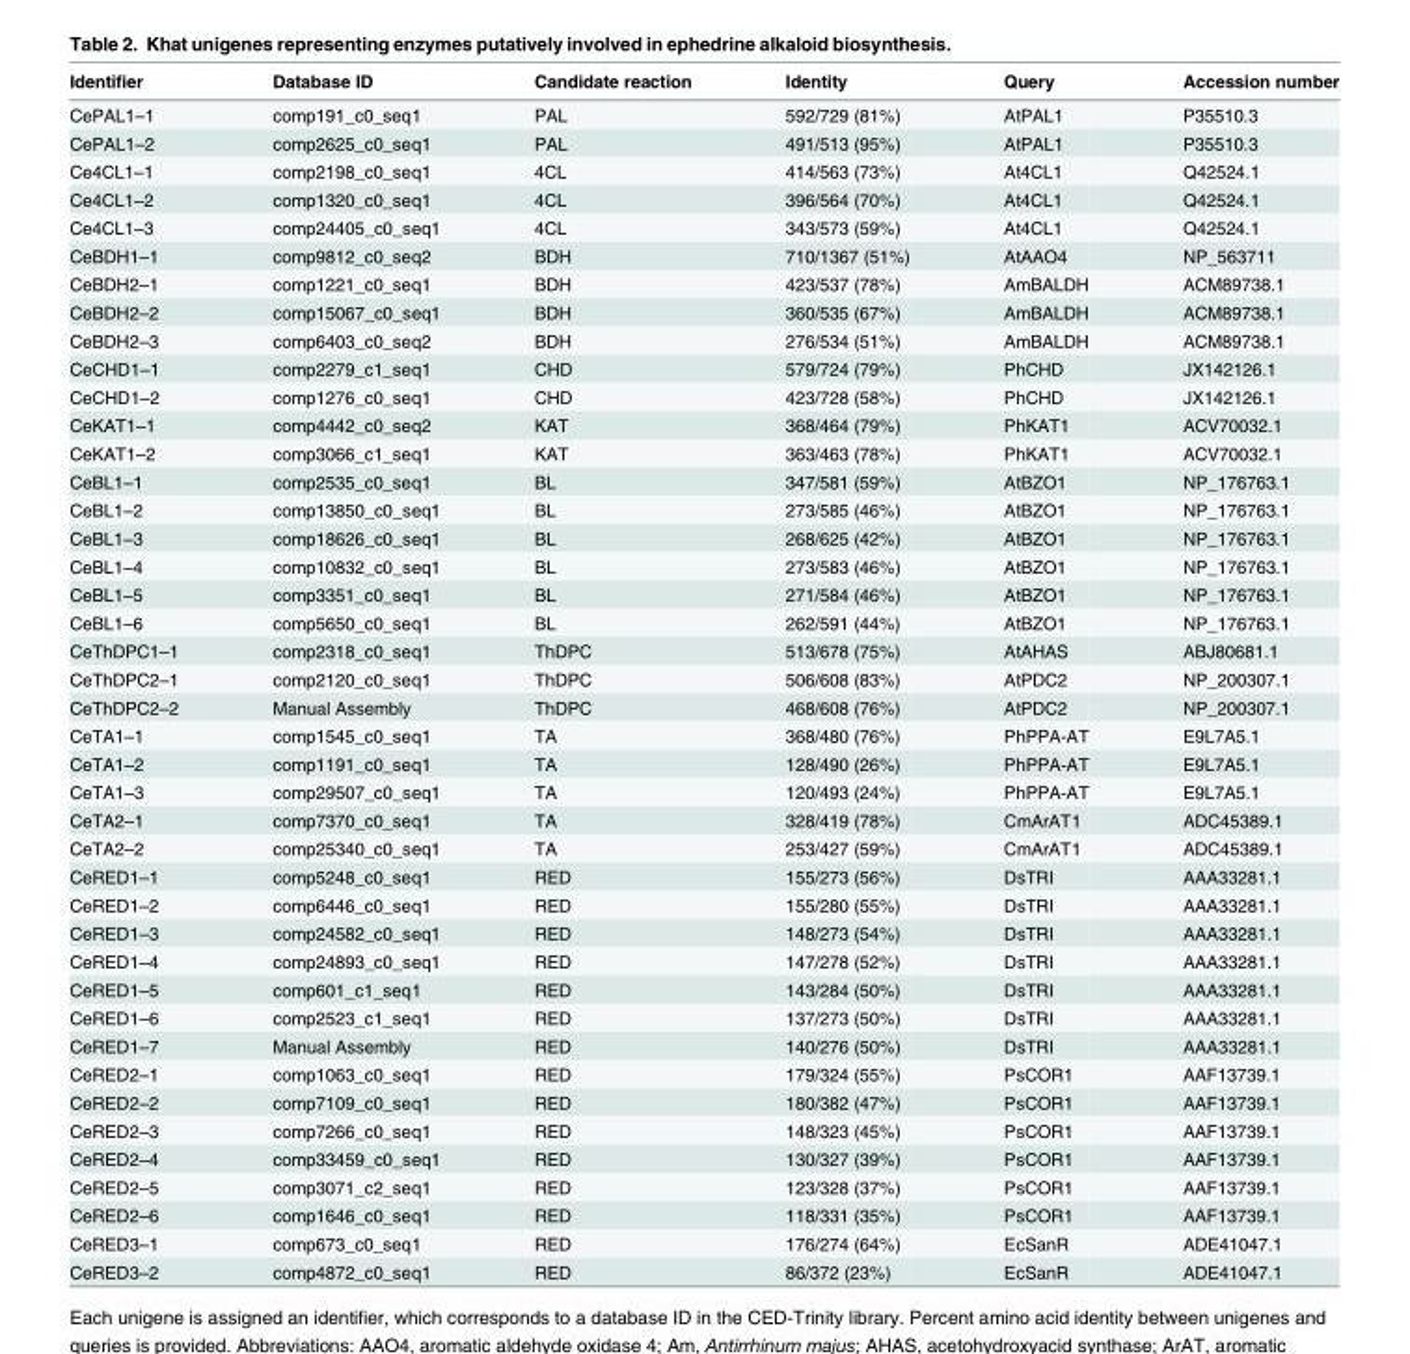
<table><thead><tr><td>Identifier</td><td>Database ID</td><td>Candidate reaction</td><td>Identity</td><td>Query</td><td>Accession number</td></tr></thead><tbody><tr><td>CePAL1–1</td><td>comp191_c0_seq1</td><td>PAL</td><td>592/729 (81%)</td><td>AtPAL1</td><td>P35510.3</td></tr><tr><td>CePAL1–2</td><td>comp2625_c0_seq1</td><td>PAL</td><td>491/513 (95%)</td><td>AtPAL1</td><td>P35510.3</td></tr><tr><td>Ce4CL1–1</td><td>comp2198_c0_seq1</td><td>4CL</td><td>414/563 (73%)</td><td>At4CL1</td><td>Q42524.1</td></tr><tr><td>Ce4CL1–2</td><td>comp1320_c0_seq1</td><td>4CL</td><td>396/564 (70%)</td><td>At4CL1</td><td>Q42524.1</td></tr><tr><td>Ce4CL1–3</td><td>comp24405_c0_seq1</td><td>4CL</td><td>343/573 (59%)</td><td>At4CL1</td><td>Q42524.1</td></tr><tr><td>CeBDH1–1</td><td>comp9812_c0_seq2</td><td>BDH</td><td>710/1367 (51%)</td><td>AtAAO4</td><td>NP_563711</td></tr><tr><td>CeBDH2–1</td><td>comp1221_c0_seq1</td><td>BDH</td><td>423/537 (78%)</td><td>AmBALDH</td><td>ACM89738.1</td></tr><tr><td>CeBDH2–2</td><td>comp15067_c0_seq1</td><td>BDH</td><td>360/535 (67%)</td><td>AmBALDH</td><td>ACM89738.1</td></tr><tr><td>CeBDH2–3</td><td>comp6403_c0_seq2</td><td>BDH</td><td>276/534 (51%)</td><td>AmBALDH</td><td>ACM89738.1</td></tr><tr><td>CeCHD1–1</td><td>comp2279_c1_seq1</td><td>CHD</td><td>579/724 (79%)</td><td>PhCHD</td><td>JX142126.1</td></tr><tr><td>CeCHD1–2</td><td>comp1276_c0_seq1</td><td>CHD</td><td>423/728 (58%)</td><td>PhCHD</td><td>JX142126.1</td></tr><tr><td>CeKAT1–1</td><td>comp4442_c0_seq2</td><td>KAT</td><td>368/464 (79%)</td><td>PhKAT1</td><td>ACV70032.1</td></tr><tr><td>CeKAT1–2</td><td>comp3066_c1_seq1</td><td>KAT</td><td>363/463 (78%)</td><td>PhKAT1</td><td>ACV70032.1</td></tr><tr><td>CeBL1–1</td><td>comp2535_c0_seq1</td><td>BL</td><td>347/581 (59%)</td><td>AtBZO1</td><td>NP_176763.1</td></tr><tr><td>CeBL1–2</td><td>comp13850_c0_seq1</td><td>BL</td><td>273/585 (46%)</td><td>AtBZO1</td><td>NP_176763.1</td></tr><tr><td>CeBL1–3</td><td>comp18626_c0_seq1</td><td>BL</td><td>268/625 (42%)</td><td>AtBZO1</td><td>NP_176763.1</td></tr><tr><td>CeBL1–4</td><td>comp10832_c0_seq1</td><td>BL</td><td>273/583 (46%)</td><td>AtBZO1</td><td>NP_176763.1</td></tr><tr><td>CeBL1–5</td><td>comp3351_c0_seq1</td><td>BL</td><td>271/584 (46%)</td><td>AtBZO1</td><td>NP_176763.1</td></tr><tr><td>CeBL1–6</td><td>comp5650_c0_seq1</td><td>BL</td><td>262/591 (44%)</td><td>AtBZO1</td><td>NP_176763.1</td></tr><tr><td>CeThDPC1–1</td><td>comp2318_c0_seq1</td><td>ThDPC</td><td>513/678 (75%)</td><td>AtAHAS</td><td>ABJ80681.1</td></tr><tr><td>CeThDPC2–1</td><td>comp2120_c0_seq1</td><td>ThDPC</td><td>506/608 (83%)</td><td>AtPDC2</td><td>NP_200307.1</td></tr><tr><td>CeThDPC2–2</td><td>Manual Assembly</td><td>ThDPC</td><td>468/608 (76%)</td><td>AtPDC2</td><td>NP_200307.1</td></tr><tr><td>CeTA1–1</td><td>comp1545_c0_seq1</td><td>TA</td><td>368/480 (76%)</td><td>PhPPA-AT</td><td>E9L7A5.1</td></tr><tr><td>CeTA1–2</td><td>comp1191_c0_seq1</td><td>TA</td><td>128/490 (26%)</td><td>PhPPA-AT</td><td>E9L7A5.1</td></tr><tr><td>CeTA1–3</td><td>comp29507_c0_seq1</td><td>TA</td><td>120/493 (24%)</td><td>PhPPA-AT</td><td>E9L7A5.1</td></tr><tr><td>CeTA2–1</td><td>comp7370_c0_seq1</td><td>TA</td><td>328/419 (78%)</td><td>CmArAT1</td><td>ADC45389.1</td></tr><tr><td>CeTA2–2</td><td>comp25340_c0_seq1</td><td>TA</td><td>253/427 (59%)</td><td>CmArAT1</td><td>ADC45389.1</td></tr><tr><td>CeRED1–1</td><td>comp5248_c0_seq1</td><td>RED</td><td>155/273 (56%)</td><td>DsTRI</td><td>AAA33281.1</td></tr><tr><td>CeRED1–2</td><td>comp6446_c0_seq1</td><td>RED</td><td>155/280 (55%)</td><td>DsTRI</td><td>AAA33281.1</td></tr><tr><td>CeRED1–3</td><td>comp24582_c0_seq1</td><td>RED</td><td>148/273 (54%)</td><td>DsTRI</td><td>AAA33281.1</td></tr><tr><td>CeRED1–4</td><td>comp24893_c0_seq1</td><td>RED</td><td>147/278 (52%)</td><td>DsTRI</td><td>AAA33281.1</td></tr><tr><td>CeRED1–5</td><td>comp601_c1_seq1</td><td>RED</td><td>143/284 (50%)</td><td>DsTRI</td><td>AAA33281.1</td></tr><tr><td>CeRED1–6</td><td>comp2523_c1_seq1</td><td>RED</td><td>137/273 (50%)</td><td>DsTRI</td><td>AAA33281.1</td></tr><tr><td>CeRED1–7</td><td>Manual Assembly</td><td>RED</td><td>140/276 (50%)</td><td>DsTRI</td><td>AAA33281.1</td></tr><tr><td>CeRED2–1</td><td>comp1063_c0_seq1</td><td>RED</td><td>179/324 (55%)</td><td>PsCOR1</td><td>AAF13739.1</td></tr><tr><td>CeRED2–2</td><td>comp7109_c0_seq1</td><td>RED</td><td>180/382 (47%)</td><td>PsCOR1</td><td>AAF13739.1</td></tr><tr><td>CeRED2–3</td><td>comp7266_c0_seq1</td><td>RED</td><td>148/323 (45%)</td><td>PsCOR1</td><td>AAF13739.1</td></tr><tr><td>CeRED2–4</td><td>comp33459_c0_seq1</td><td>RED</td><td>130/327 (39%)</td><td>PsCOR1</td><td>AAF13739.1</td></tr><tr><td>CeRED2–5</td><td>comp3071_c2_seq1</td><td>RED</td><td>123/328 (37%)</td><td>PsCOR1</td><td>AAF13739.1</td></tr><tr><td>CeRED2–6</td><td>comp1646_c0_seq1</td><td>RED</td><td>118/331 (35%)</td><td>PsCOR1</td><td>AAF13739.1</td></tr><tr><td>CeRED3–1</td><td>comp673_c0_seq1</td><td>RED</td><td>176/274 (64%)</td><td>EcSanR</td><td>ADE41047.1</td></tr><tr><td>CeRED3–2</td><td>comp4872_c0_seq1</td><td>RED</td><td>86/372 (23%)</td><td>EcSanR</td><td>ADE41047.1</td></tr></tbody></table>